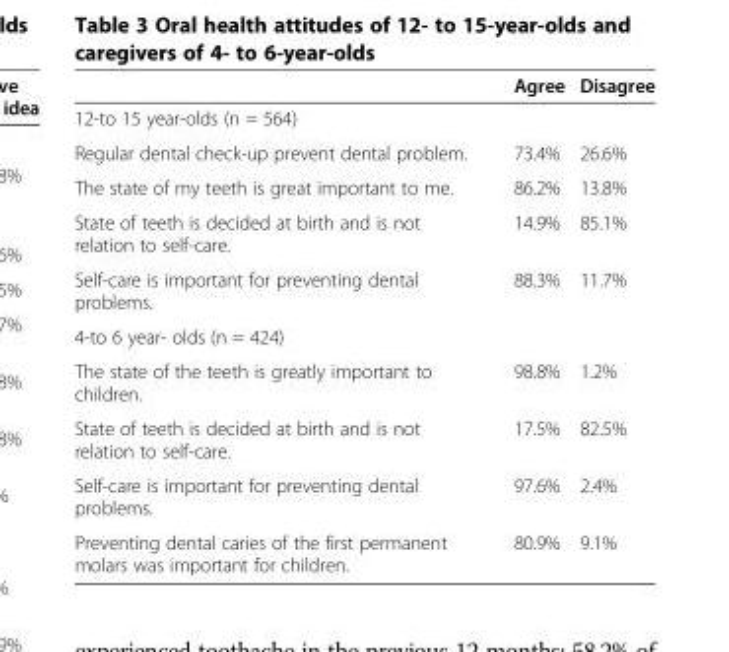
<table><thead><tr><td></td><td>Agree</td><td>Disagree</td></tr></thead><tbody><tr><td colspan="3">12-to 15 year-olds (n = 564)</td></tr><tr><td>Regular dental check-up prevent dental problem.</td><td>73.4%</td><td>26.6%</td></tr><tr><td>The state of my teeth is great important to me.</td><td>86.2%</td><td>13.8%</td></tr><tr><td>State of teeth is decided at birth and is not relation to self-care.</td><td>14.9%</td><td>85.1%</td></tr><tr><td>Self-care is important for preventing dental problems.</td><td>88.3%</td><td>11.7%</td></tr><tr><td colspan="3">4-to 6 year- olds (n = 424)</td></tr><tr><td>The state of the teeth is greatly important to children.</td><td>98.8%</td><td>1.2%</td></tr><tr><td>State of teeth is decided at birth and is not relation to self-care.</td><td>17.5%</td><td>82.5%</td></tr><tr><td>Self-care is important for preventing dental problems.</td><td>97.6%</td><td>2.4%</td></tr><tr><td>Preventing dental caries of the first permanent molars was important for children.</td><td>80.9%</td><td>9.1%</td></tr></tbody></table>